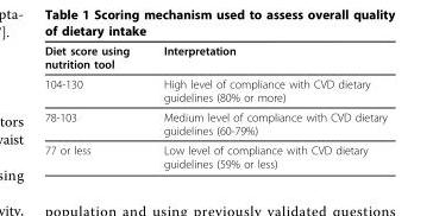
<table><thead><tr><td>Diet score using nutrition tool</td><td>Interpretation</td></tr></thead><tbody><tr><td>104-130</td><td>High level of compliance with CVD dietary guidelines (80% or more)</td></tr><tr><td>78-103</td><td>Medium level of compliance with CVD dietary guidelines (60-79%)</td></tr><tr><td>77 or less</td><td>Low level of compliance with CVD dietary guidelines (59% or less)</td></tr></tbody></table>